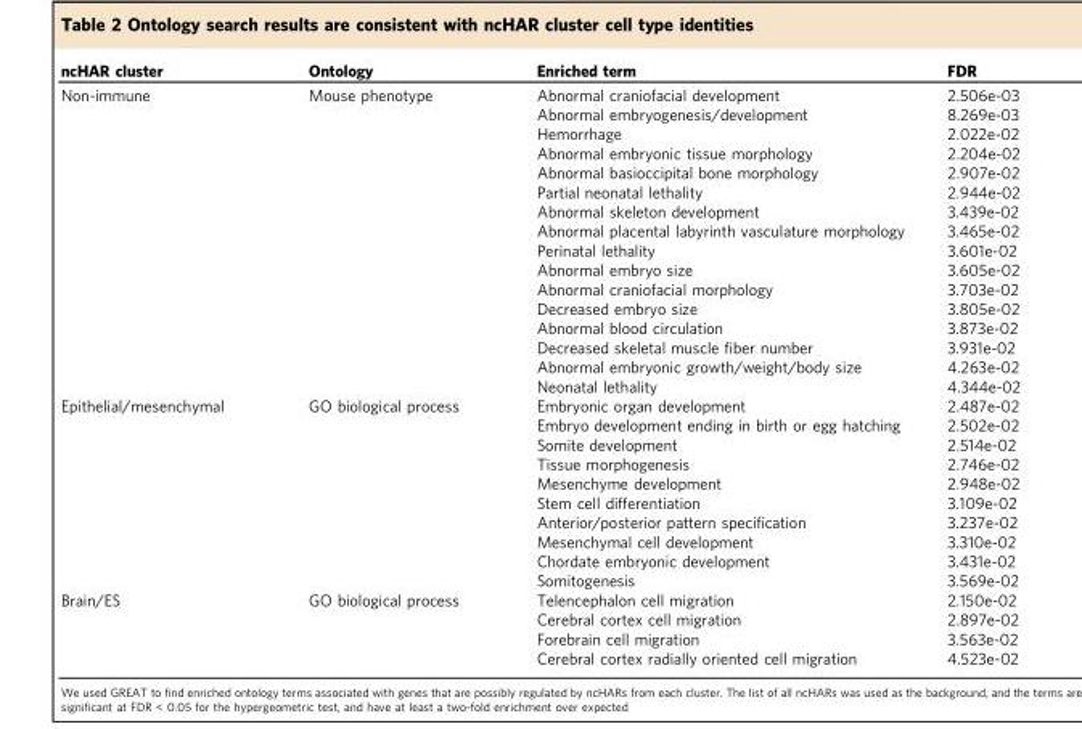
<table><thead><tr><td>ncHAR cluster</td><td>Ontology</td><td>Enriched term</td><td>FDR</td></tr></thead><tbody><tr><td rowspan="16">Non-immune</td><td rowspan="16">Mouse phenotype</td><td>Abnormal craniofacial development</td><td>2.506e-03</td></tr><tr><td>Abnormal embryogenesis/development</td><td>8.269e-03</td></tr><tr><td>Hemorrhage</td><td>2.022e-02</td></tr><tr><td>Abnormal embryonic tissue morphology</td><td>2.204e-02</td></tr><tr><td>Abnormal basioccipital bone morphology</td><td>2.907e-02</td></tr><tr><td>Partial neonatal lethality</td><td>2.944e-02</td></tr><tr><td>Abnormal skeleton development</td><td>3.439e-02</td></tr><tr><td>Abnormal placental labyrinth vasculature morphology</td><td>3.465e-02</td></tr><tr><td>Perinatal lethality</td><td>3.601e-02</td></tr><tr><td>Abnormal embryo size</td><td>3.605e-02</td></tr><tr><td>Abnormal craniofacial morphology</td><td>3.703e-02</td></tr><tr><td>Decreased embryo size</td><td>3.805e-02</td></tr><tr><td>Abnormal blood circulation</td><td>3.873e-02</td></tr><tr><td>Decreased skeletal muscle fiber number</td><td>3.931e-02</td></tr><tr><td>Abnormal embryonic growth/weight/body size</td><td>4.263e-02</td></tr><tr><td>Neonatal lethality</td><td>4.344e-02</td></tr><tr><td rowspan="10">Epithelial/mesenchymal</td><td rowspan="10">GO biological process</td><td>Embryonic organ development</td><td>2.487e-02</td></tr><tr><td>Embryo development ending in birth or egg hatching</td><td>2.502e-02</td></tr><tr><td>Somite development</td><td>2.514e-02</td></tr><tr><td>Tissue morphogenesis</td><td>2.746e-02</td></tr><tr><td>Mesenchyme development</td><td>2.948e-02</td></tr><tr><td>Stem cell differentiation</td><td>3.109e-02</td></tr><tr><td>Anterior/posterior pattern specification</td><td>3.237e-02</td></tr><tr><td>Mesenchymal cell development</td><td>3.310e-02</td></tr><tr><td>Chordate embryonic development</td><td>3.431e-02</td></tr><tr><td>Somitogenesis</td><td>3.569e-02</td></tr><tr><td rowspan="4">Brain/ES</td><td rowspan="4">GO biological process</td><td>Telencephalon cell migration</td><td>2.150e-02</td></tr><tr><td>Cerebral cortex cell migration</td><td>2.897e-02</td></tr><tr><td>Forebrain cell migration</td><td>3.563e-02</td></tr><tr><td>Cerebral cortex radially oriented cell migration</td><td>4.523e-02</td></tr></tbody></table>